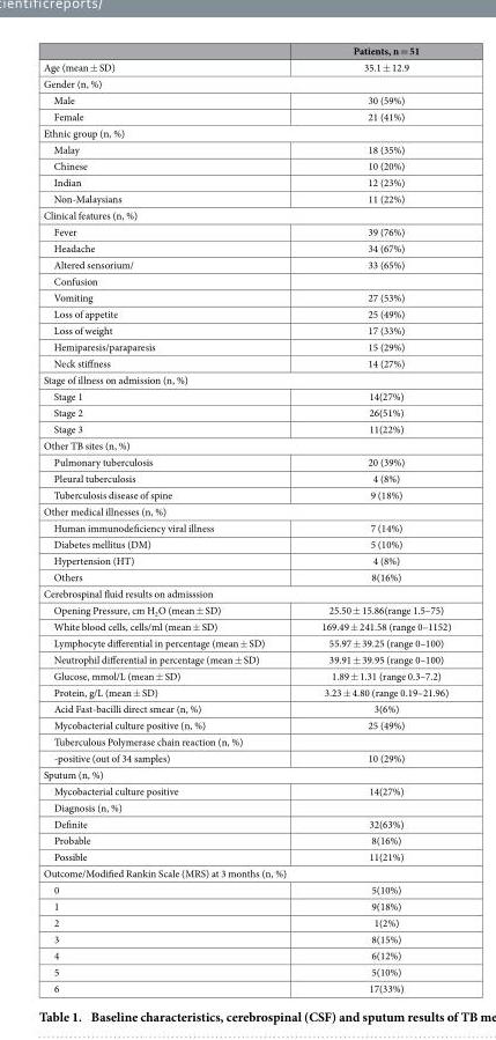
<table><thead><tr><td></td><td>Patients, n = 51</td></tr></thead><tbody><tr><td>Age (mean ± SD)</td><td>35.1 ± 12.9</td></tr><tr><td colspan="2">Gender (n, %)</td></tr><tr><td>Male</td><td>30 (59%)</td></tr><tr><td>Female</td><td>21 (41%)</td></tr><tr><td colspan="2">Ethnic group (n, %)</td></tr><tr><td>Malay</td><td>18 (35%)</td></tr><tr><td>Chinese</td><td>10 (20%)</td></tr><tr><td>Indian</td><td>12 (23%)</td></tr><tr><td>Non-Malaysians</td><td>11 (22%)</td></tr><tr><td colspan="2">Clinical features (n, %)</td></tr><tr><td>Fever</td><td>39 (76%)</td></tr><tr><td>Headache</td><td>34 (67%)</td></tr><tr><td>Altered sensorium/</td><td>33 (65%)</td></tr><tr><td colspan="2">Confusion</td></tr><tr><td>Vomiting</td><td>27 (53%)</td></tr><tr><td>Loss of appetite</td><td>25 (49%)</td></tr><tr><td>Loss of weight</td><td>17 (33%)</td></tr><tr><td>Hemiparesis/paraparesis</td><td>15 (29%)</td></tr><tr><td>Neck stiffness</td><td>14 (27%)</td></tr><tr><td colspan="2">Stage of illness on admission (n, %)</td></tr><tr><td>Stage 1</td><td>14(27%)</td></tr><tr><td>Stage 2</td><td>26(51%)</td></tr><tr><td>Stage 3</td><td>11(22%)</td></tr><tr><td colspan="2">Other TB sites (n, %)</td></tr><tr><td>Pulmonary tuberculosis</td><td>20 (39%)</td></tr><tr><td>Pleural tuberculosis</td><td>4 (8%)</td></tr><tr><td>Tuberculosis disease of spine</td><td>9 (18%)</td></tr><tr><td colspan="2">Other medical illnesses (n, %)</td></tr><tr><td>Human immunodeficiency viral illness</td><td>7 (14%)</td></tr><tr><td>Diabetes mellitus (DM)</td><td>5 (10%)</td></tr><tr><td>Hypertension (HT)</td><td>4 (8%)</td></tr><tr><td>Others</td><td>8(16%)</td></tr><tr><td colspan="2">Cerebrospinal fluid results on admisssion</td></tr><tr><td>Opening Pressure, cm H<sub>2</sub>O (mean ± SD)</td><td>25.50 ± 15.86(range 1.5–75)</td></tr><tr><td>White blood cells, cells/ml (mean ± SD)</td><td>169.49 ± 241.58 (range 0–1152)</td></tr><tr><td>Lymphocyte differential in percentage (mean ± SD)</td><td>55.97 ± 39.25 (range 0–100)</td></tr><tr><td>Neutrophil differential in percentage (mean ± SD)</td><td>39.91 ± 39.95 (range 0–100)</td></tr><tr><td>Glucose, mmol/L (mean ± SD)</td><td>1.89 ± 1.31 (range 0.3–7.2)</td></tr><tr><td>Protein, g/L (mean ± SD)</td><td>3.23 ± 4.80 (range 0.19–21.96)</td></tr><tr><td>Acid Fast-bacilli direct smear (n, %)</td><td>3(6%)</td></tr><tr><td>Mycobacterial culture positive (n, %)</td><td>25 (49%)</td></tr><tr><td colspan="2">Tuberculous Polymerase chain reaction (n, %)</td></tr><tr><td>-positive (out of 34 samples)</td><td>10 (29%)</td></tr><tr><td colspan="2">Sputum (n, %)</td></tr><tr><td>Mycobacterial culture positive</td><td>14(27%)</td></tr><tr><td colspan="2">Diagnosis (n, %)</td></tr><tr><td>Definite</td><td>32(63%)</td></tr><tr><td>Probable</td><td>8(16%)</td></tr><tr><td>Possible</td><td>11(21%)</td></tr><tr><td colspan="2">Outcome/Modified Rankin Scale (MRS) at 3 months (n, %)</td></tr><tr><td>0</td><td>5(10%)</td></tr><tr><td>1</td><td>9(18%)</td></tr><tr><td>2</td><td>1(2%)</td></tr><tr><td>3</td><td>8(15%)</td></tr><tr><td>4</td><td>6(12%)</td></tr><tr><td>5</td><td>5(10%)</td></tr><tr><td>6</td><td>17(33%)</td></tr></tbody></table>